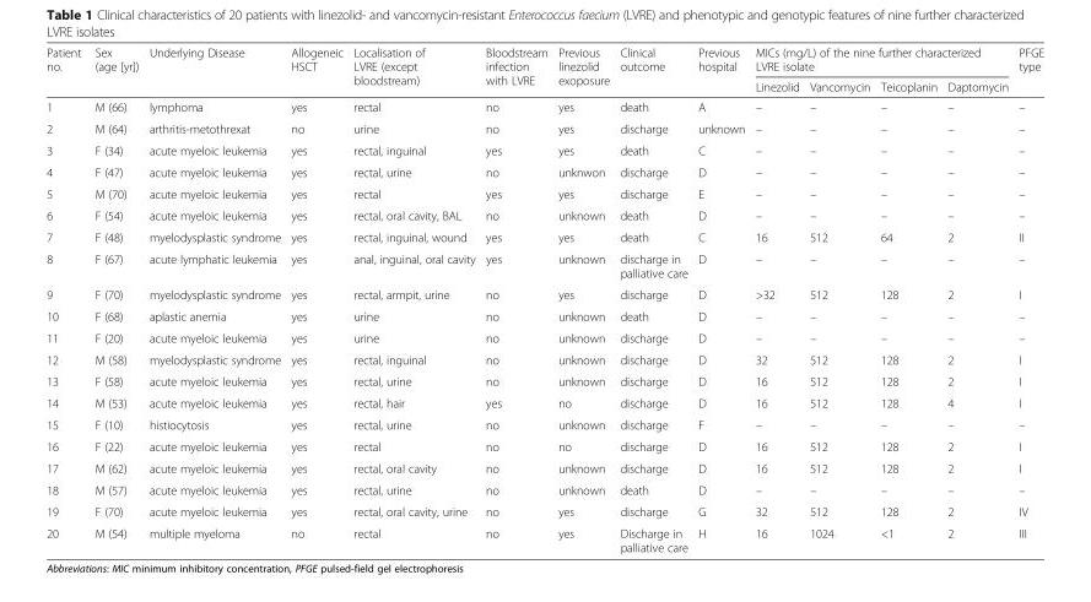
<table><thead><tr><td rowspan="2">Patient no.</td><td rowspan="2">Sex (age [yr])</td><td rowspan="2">Underlying Disease</td><td rowspan="2">Allogeneic HSCT</td><td rowspan="2">Localisation of LVRE (except bloodstream)</td><td rowspan="2">Bloodstream infection with LVRE</td><td rowspan="2">Previous linezolid exoposure</td><td rowspan="2">Clinical outcome</td><td rowspan="2">Previous hospital</td><td colspan="4">MICs (mg/L) of the nine further characterized LVRE isolate</td><td rowspan="2">PFGE type</td></tr><tr><td>Linezolid</td><td>Vancomycin</td><td>Teicoplanin</td><td>Daptomycin</td></tr></thead><tbody><tr><td>1</td><td>M (66)</td><td>lymphoma</td><td>yes</td><td>rectal</td><td>no</td><td>yes</td><td>death</td><td>A</td><td>–</td><td>–</td><td>–</td><td>–</td><td>–</td></tr><tr><td>2</td><td>M (64)</td><td>arthritis-metothrexat</td><td>no</td><td>urine</td><td>no</td><td>yes</td><td>discharge</td><td>unknown</td><td>–</td><td>–</td><td>–</td><td>–</td><td>–</td></tr><tr><td>3</td><td>F (34)</td><td>acute myeloic leukemia</td><td>yes</td><td>rectal, inguinal</td><td>yes</td><td>yes</td><td>death</td><td>C</td><td>–</td><td>–</td><td>–</td><td>–</td><td>–</td></tr><tr><td>4</td><td>F (47)</td><td>acute myeloic leukemia</td><td>yes</td><td>rectal, urine</td><td>no</td><td>unknwon</td><td>discharge</td><td>D</td><td>–</td><td>–</td><td>–</td><td>–</td><td>–</td></tr><tr><td>5</td><td>M (70)</td><td>acute myeloic leukemia</td><td>yes</td><td>rectal</td><td>yes</td><td>yes</td><td>discharge</td><td>E</td><td>–</td><td>–</td><td>–</td><td>–</td><td>–</td></tr><tr><td>6</td><td>F (54)</td><td>acute myeloic leukemia</td><td>yes</td><td>rectal, oral cavity, BAL</td><td>no</td><td>unknown</td><td>death</td><td>D</td><td>–</td><td>–</td><td>–</td><td>–</td><td>–</td></tr><tr><td>7</td><td>F (48)</td><td>myelodysplastic syndrome</td><td>yes</td><td>rectal, inguinal, wound</td><td>yes</td><td>yes</td><td>death</td><td>C</td><td>16</td><td>512</td><td>64</td><td>2</td><td>II</td></tr><tr><td>8</td><td>F (67)</td><td>acute lymphatic leukemia</td><td>yes</td><td>anal, inguinal, oral cavity</td><td>yes</td><td>unknown</td><td>discharge in palliative care</td><td>D</td><td>–</td><td>–</td><td>–</td><td>–</td><td>–</td></tr><tr><td>9</td><td>F (70)</td><td>myelodysplastic syndrome</td><td>yes</td><td>rectal, armpit, urine</td><td>no</td><td>yes</td><td>discharge</td><td>D</td><td>&gt;32</td><td>512</td><td>128</td><td>2</td><td>I</td></tr><tr><td>10</td><td>F (68)</td><td>aplastic anemia</td><td>yes</td><td>urine</td><td>no</td><td>unknown</td><td>death</td><td>D</td><td>–</td><td>–</td><td>–</td><td>–</td><td>–</td></tr><tr><td>11</td><td>F (20)</td><td>acute myeloic leukemia</td><td>yes</td><td>urine</td><td>no</td><td>unknown</td><td>discharge</td><td>D</td><td>–</td><td>–</td><td>–</td><td>–</td><td>–</td></tr><tr><td>12</td><td>M (58)</td><td>myelodysplastic syndrome</td><td>yes</td><td>rectal, inguinal</td><td>no</td><td>unknown</td><td>discharge</td><td>D</td><td>32</td><td>512</td><td>128</td><td>2</td><td>I</td></tr><tr><td>13</td><td>F (58)</td><td>acute myeloic leukemia</td><td>yes</td><td>rectal, urine</td><td>no</td><td>unknown</td><td>discharge</td><td>D</td><td>16</td><td>512</td><td>128</td><td>2</td><td>I</td></tr><tr><td>14</td><td>M (53)</td><td>acute myeloic leukemia</td><td>yes</td><td>rectal, hair</td><td>yes</td><td>no</td><td>discharge</td><td>D</td><td>16</td><td>512</td><td>128</td><td>4</td><td>I</td></tr><tr><td>15</td><td>F (10)</td><td>histiocytosis</td><td>yes</td><td>rectal, urine</td><td>no</td><td>unknown</td><td>discharge</td><td>F</td><td>–</td><td>–</td><td>–</td><td>–</td><td>–</td></tr><tr><td>16</td><td>F (22)</td><td>acute myeloic leukemia</td><td>yes</td><td>rectal</td><td>no</td><td>no</td><td>discharge</td><td>D</td><td>16</td><td>512</td><td>128</td><td>2</td><td>I</td></tr><tr><td>17</td><td>M (62)</td><td>acute myeloic leukemia</td><td>yes</td><td>rectal, oral cavity</td><td>no</td><td>unknown</td><td>discharge</td><td>D</td><td>16</td><td>512</td><td>128</td><td>2</td><td>I</td></tr><tr><td>18</td><td>M (57)</td><td>acute myeloic leukemia</td><td>yes</td><td>rectal, urine</td><td>no</td><td>unknown</td><td>death</td><td>D</td><td>–</td><td>–</td><td>–</td><td>–</td><td>–</td></tr><tr><td>19</td><td>F (70)</td><td>acute myeloic leukemia</td><td>yes</td><td>rectal, oral cavity, urine</td><td>no</td><td>yes</td><td>discharge</td><td>G</td><td>32</td><td>512</td><td>128</td><td>2</td><td>IV</td></tr><tr><td>20</td><td>M (54)</td><td>multiple myeloma</td><td>no</td><td>rectal</td><td>no</td><td>yes</td><td>Discharge in palliative care</td><td>H</td><td>16</td><td>1024</td><td>&lt;1</td><td>2</td><td>III</td></tr></tbody></table>